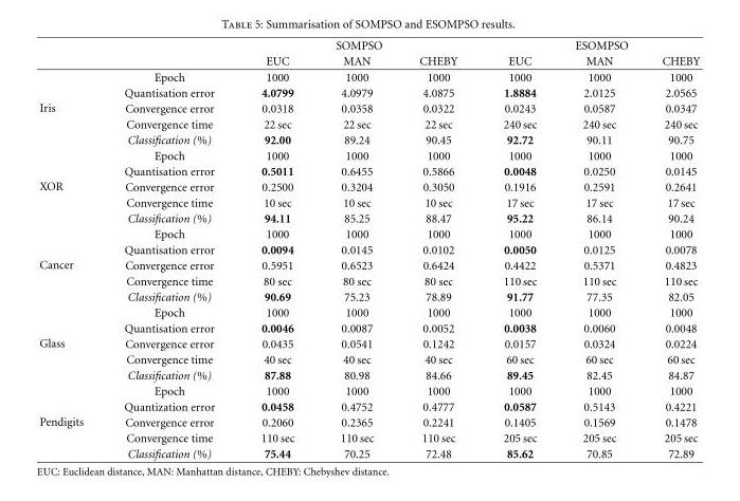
<table><thead><tr><td rowspan="2"></td><td rowspan="2"></td><td colspan="3">SOMPSO</td><td colspan="3">ESOMPSO</td></tr><tr><td>EUC</td><td>MAN</td><td>CHEBY</td><td>EUC</td><td>MAN</td><td>CHEBY</td></tr></thead><tbody><tr><td rowspan="5">Iris</td><td>Epoch</td><td>1000</td><td>1000</td><td>1000</td><td>1000</td><td>1000</td><td>1000</td></tr><tr><td>Quantisation error</td><td>4.0799</td><td>4.0979</td><td>4.0875</td><td>1.8884</td><td>2.0125</td><td>2.0565</td></tr><tr><td>Convergence error</td><td>0.0318</td><td>0.0358</td><td>0.0322</td><td>0.0243</td><td>0.0587</td><td>0.0347</td></tr><tr><td>Convergence time</td><td>22 sec</td><td>22 sec</td><td>22 sec</td><td>240 sec</td><td>240 sec</td><td>240 sec</td></tr><tr><td>Classification (%)</td><td>92.00</td><td>89.24</td><td>90.45</td><td>92.72</td><td>90.11</td><td>90.75</td></tr><tr><td rowspan="5">XOR</td><td>Epoch</td><td>1000</td><td>1000</td><td>1000</td><td>1000</td><td>1000</td><td>1000</td></tr><tr><td>Quantisation error</td><td>0.5011</td><td>0.6455</td><td>0.5866</td><td>0.0048</td><td>0.0250</td><td>0.0145</td></tr><tr><td>Convergence error</td><td>0.2500</td><td>0.3204</td><td>0.3050</td><td>0.1916</td><td>0.2591</td><td>0.2641</td></tr><tr><td>Convergence time</td><td>10 sec</td><td>10 sec</td><td>10 sec</td><td>17 sec</td><td>17 sec</td><td>17 sec</td></tr><tr><td>Classification (%)</td><td>94.11</td><td>85.25</td><td>88.47</td><td>95.22</td><td>86.14</td><td>90.24</td></tr><tr><td rowspan="5">Cancer</td><td>Epoch</td><td>1000</td><td>1000</td><td>1000</td><td>1000</td><td>1000</td><td>1000</td></tr><tr><td>Quantisation error</td><td>0.0094</td><td>0.0145</td><td>0.0102</td><td>0.0050</td><td>0.0125</td><td>0.0078</td></tr><tr><td>Convergence error</td><td>0.5951</td><td>0.6523</td><td>0.6424</td><td>0.4422</td><td>0.5371</td><td>0.4823</td></tr><tr><td>Convergence time</td><td>80 sec</td><td>80 sec</td><td>80 sec</td><td>110 sec</td><td>110 sec</td><td>110 sec</td></tr><tr><td>Classification (%)</td><td>90.69</td><td>75.23</td><td>78.89</td><td>91.77</td><td>77.35</td><td>82.05</td></tr><tr><td rowspan="5">Glass</td><td>Epoch</td><td>1000</td><td>1000</td><td>1000</td><td>1000</td><td>1000</td><td>1000</td></tr><tr><td>Quantisation error</td><td>0.0046</td><td>0.0087</td><td>0.0052</td><td>0.0038</td><td>0.0060</td><td>0.0048</td></tr><tr><td>Convergence error</td><td>0.0435</td><td>0.0541</td><td>0.1242</td><td>0.0157</td><td>0.0324</td><td>0.0224</td></tr><tr><td>Convergence time</td><td>40 sec</td><td>40 sec</td><td>40 sec</td><td>60 sec</td><td>60 sec</td><td>60 sec</td></tr><tr><td>Classification (%)</td><td>87.88</td><td>80.98</td><td>84.66</td><td>89.45</td><td>82.45</td><td>84.87</td></tr><tr><td rowspan="5">Pendigits</td><td>Epoch</td><td>1000</td><td>1000</td><td>1000</td><td>1000</td><td>1000</td><td>1000</td></tr><tr><td>Quantization error</td><td>0.0458</td><td>0.4752</td><td>0.4777</td><td>0.0587</td><td>0.5143</td><td>0.4221</td></tr><tr><td>Convergence error</td><td>0.2060</td><td>0.2365</td><td>0.2241</td><td>0.1405</td><td>0.1569</td><td>0.1478</td></tr><tr><td>Convergence time</td><td>110 sec</td><td>110 sec</td><td>110 sec</td><td>205 sec</td><td>205 sec</td><td>205 sec</td></tr><tr><td>Classification (%)</td><td>75.44</td><td>70.25</td><td>72.48</td><td>85.62</td><td>70.85</td><td>72.89</td></tr></tbody></table>